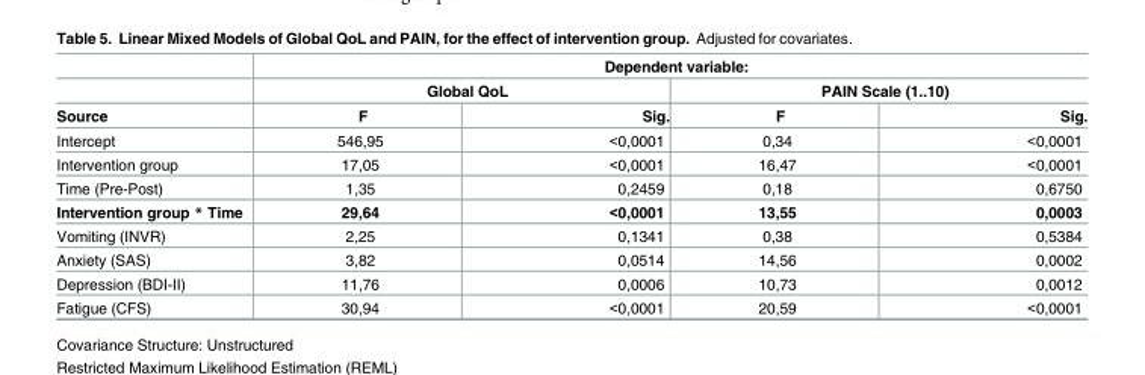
<table><thead><tr><td rowspan="3">Source</td><td colspan="4">Dependent variable:</td></tr><tr><td colspan="2">Global QoL</td><td colspan="2">PAIN Scale (1..10)</td></tr><tr><td>F</td><td>Sig.</td><td>F</td><td>Sig.</td></tr></thead><tbody><tr><td>Intercept</td><td>546,95</td><td>&lt;0,0001</td><td>0,34</td><td>&lt;0,0001</td></tr><tr><td>Intervention group</td><td>17,05</td><td>&lt;0,0001</td><td>16,47</td><td>&lt;0,0001</td></tr><tr><td>Time (Pre-Post)</td><td>1,35</td><td>0,2459</td><td>0,18</td><td>0,6750</td></tr><tr><td>Intervention group * Time</td><td>29,64</td><td>&lt;0,0001</td><td>13,55</td><td>0,0003</td></tr><tr><td>Vomiting (INVR)</td><td>2,25</td><td>0,1341</td><td>0,38</td><td>0,5384</td></tr><tr><td>Anxiety (SAS)</td><td>3,82</td><td>0,0514</td><td>14,56</td><td>0,0002</td></tr><tr><td>Depression (BDI-II)</td><td>11,76</td><td>0,0006</td><td>10,73</td><td>0,0012</td></tr><tr><td>Fatigue (CFS)</td><td>30,94</td><td>&lt;0,0001</td><td>20,59</td><td>&lt;0,0001</td></tr></tbody></table>